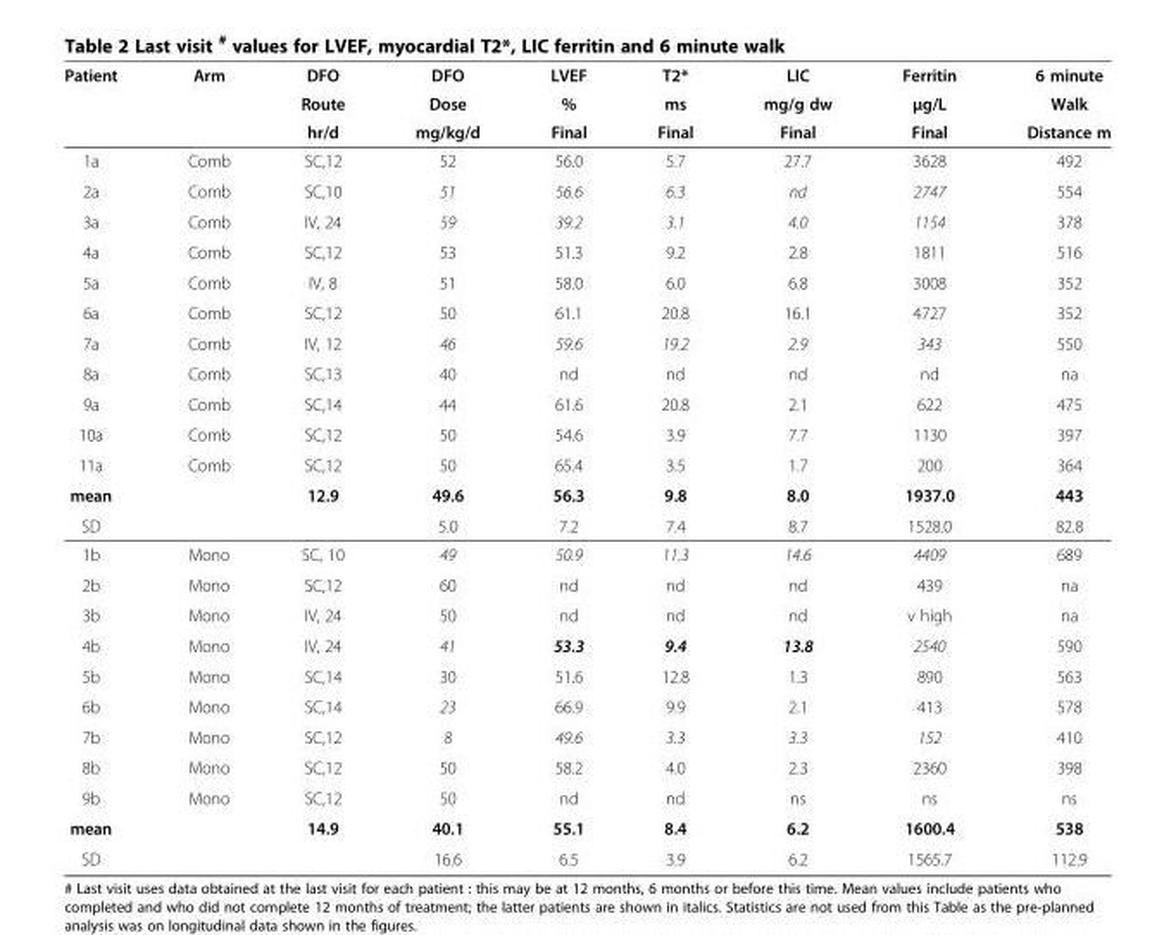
<table><thead><tr><td rowspan="3">Patient</td><td rowspan="3">Arm</td><td rowspan="3">DFO Route hr/d</td><td rowspan="3">DFO Dose mg/kg/d</td><td rowspan="3">LVEF % Final</td><td rowspan="3">T2* ms Final</td><td rowspan="3">LIC mg/g dw Final</td><td rowspan="3">Ferritin μg/L Final</td><td rowspan="3">6 minute Walk Distance m</td></tr><tr></tr><tr></tr></thead><tbody><tr><td>1a</td><td>Comb</td><td>SC,12</td><td>52</td><td>56.0</td><td>5.7</td><td>27.7</td><td>3628</td><td>492</td></tr><tr><td>2a</td><td>Comb</td><td>SC,10</td><td>51</td><td>56.6</td><td>6.3</td><td>nd</td><td>2747</td><td>554</td></tr><tr><td>3a</td><td>Comb</td><td>IV, 24</td><td>59</td><td>39.2</td><td>3.1</td><td>4.0</td><td>1154</td><td>378</td></tr><tr><td>4a</td><td>Comb</td><td>SC,12</td><td>53</td><td>51.3</td><td>9.2</td><td>2.8</td><td>1811</td><td>516</td></tr><tr><td>5a</td><td>Comb</td><td>IV, 8</td><td>51</td><td>58.0</td><td>6.0</td><td>6.8</td><td>3008</td><td>352</td></tr><tr><td>6a</td><td>Comb</td><td>SC,12</td><td>50</td><td>61.1</td><td>20.8</td><td>16.1</td><td>4727</td><td>352</td></tr><tr><td>7a</td><td>Comb</td><td>IV, 12</td><td>46</td><td>59.6</td><td>19.2</td><td>2.9</td><td>343</td><td>550</td></tr><tr><td>8a</td><td>Comb</td><td>SC,13</td><td>40</td><td>nd</td><td>nd</td><td>nd</td><td>nd</td><td>na</td></tr><tr><td>9a</td><td>Comb</td><td>SC,14</td><td>44</td><td>61.6</td><td>20.8</td><td>2.1</td><td>622</td><td>475</td></tr><tr><td>10a</td><td>Comb</td><td>SC,12</td><td>50</td><td>54.6</td><td>3.9</td><td>7.7</td><td>1130</td><td>397</td></tr><tr><td>11a</td><td>Comb</td><td>SC,12</td><td>50</td><td>65.4</td><td>3.5</td><td>1.7</td><td>200</td><td>364</td></tr><tr><td>mean</td><td></td><td>12.9</td><td>49.6</td><td>56.3</td><td>9.8</td><td>8.0</td><td>1937.0</td><td>443</td></tr><tr><td>SD</td><td></td><td></td><td>5.0</td><td>7.2</td><td>7.4</td><td>8.7</td><td>1528.0</td><td>82.8</td></tr><tr><td>1b</td><td>Mono</td><td>SC, 10</td><td>49</td><td>50.9</td><td>11.3</td><td>14.6</td><td>4409</td><td>689</td></tr><tr><td>2b</td><td>Mono</td><td>SC,12</td><td>60</td><td>nd</td><td>nd</td><td>nd</td><td>439</td><td>na</td></tr><tr><td>3b</td><td>Mono</td><td>IV, 24</td><td>50</td><td>nd</td><td>nd</td><td>nd</td><td>v high</td><td>na</td></tr><tr><td>4b</td><td>Mono</td><td>IV, 24</td><td>41</td><td>53.3</td><td>9.4</td><td>13.8</td><td>2540</td><td>590</td></tr><tr><td>5b</td><td>Mono</td><td>SC,14</td><td>30</td><td>51.6</td><td>12.8</td><td>1.3</td><td>890</td><td>563</td></tr><tr><td>6b</td><td>Mono</td><td>SC,14</td><td>23</td><td>66.9</td><td>9.9</td><td>2.1</td><td>413</td><td>578</td></tr><tr><td>7b</td><td>Mono</td><td>SC,12</td><td>8</td><td>49.6</td><td>3.3</td><td>3.3</td><td>152</td><td>410</td></tr><tr><td>8b</td><td>Mono</td><td>SC,12</td><td>50</td><td>58.2</td><td>4.0</td><td>2.3</td><td>2360</td><td>398</td></tr><tr><td>9b</td><td>Mono</td><td>SC,12</td><td>50</td><td>nd</td><td>nd</td><td>ns</td><td>ns</td><td>ns</td></tr><tr><td>mean</td><td></td><td>14.9</td><td>40.1</td><td>55.1</td><td>8.4</td><td>6.2</td><td>1600.4</td><td>538</td></tr><tr><td>SD</td><td></td><td></td><td>16.6</td><td>6.5</td><td>3.9</td><td>6.2</td><td>1565.7</td><td>112.9</td></tr></tbody></table>